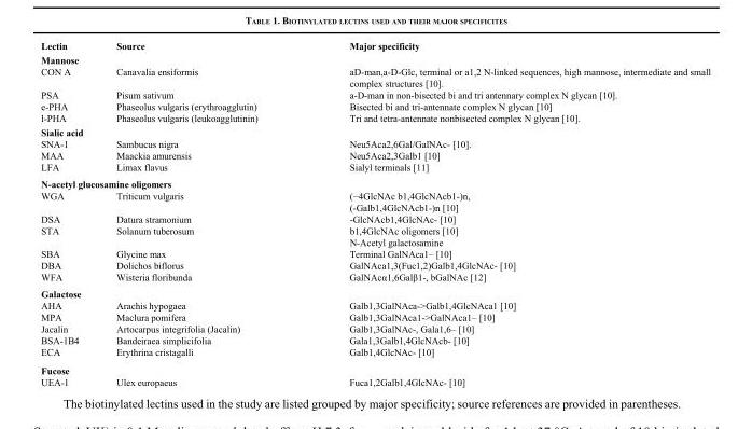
<table><thead><tr><td>Lectin</td><td>Source</td><td>Major specificity</td></tr></thead><tbody><tr><td colspan="3">Mannose</td></tr><tr><td>CON A</td><td>Canavalia ensiformis</td><td>aD-man,a-D-Glc, terminal or a1,2 N-linked sequences, high mannose, intermediate and small complex structures [10].</td></tr><tr><td>PSA</td><td>Pisum sativum</td><td>a-D-man in non-bisected bi and tri antennary complex N glycan [10].</td></tr><tr><td>e-PHA</td><td>Phaseolus vulgaris (erythroagglutin)</td><td>Bisected bi and tri-antennate complex N glycan [10]</td></tr><tr><td>l-PHA</td><td>Phaseolus vulgaris (leukoagglutinin)</td><td>Tri and tetra-antennate nonbisected complex N glycan [10].</td></tr><tr><td colspan="3">Sialic acid</td></tr><tr><td>SNA-1</td><td>Sambucus nigra</td><td>Neu5Aca2,6Gal/GalNAc- [10].</td></tr><tr><td>MAA</td><td>Maackia amurensis</td><td>Neu5Aca2,3Galb1 [10]</td></tr><tr><td>LFA</td><td>Limax flavus</td><td>Sialyl terminals [11]</td></tr><tr><td colspan="3">N-acetyl glucosamine oligomers</td></tr><tr><td rowspan="2">WGA</td><td>Triticum vulgaris</td><td>(−4GlcNAc b1,4GlcNAcb1-)n,</td></tr><tr><td></td><td>(-Galb1,4GlcNAcb1-)n [10]</td></tr><tr><td>DSA</td><td>Datura stramonium</td><td>-GlcNAcb1,4GlcNAc- [10]</td></tr><tr><td rowspan="2">STA</td><td>Solanum tuberosum</td><td>b1,4GlcNAc oligomers [10]</td></tr><tr><td></td><td>N-Acetyl galactosamine</td></tr><tr><td>SBA</td><td>Glycine max</td><td>Terminal GalNAca1– [10]</td></tr><tr><td>DBA</td><td>Dolichos biflorus</td><td>GalNAca1,3(Fuc1,2)Galb1,4GlcNAc- [10]</td></tr><tr><td>WFA</td><td>Wisteria floribunda</td><td>GalNAcα1,6Galβ1-, bGalNAc [12]</td></tr><tr><td colspan="3">Galactose</td></tr><tr><td>AHA</td><td>Arachis hypogaea</td><td>Galb1,3GalNAca-&gt;Galb1,4GlcNAca1 [10]</td></tr><tr><td>MPA</td><td>Maclura pomifera</td><td>Galb1,3GalNAca1-&gt;GalNAca1– [10]</td></tr><tr><td>Jacalin</td><td>Artocarpus integrifolia (Jacalin)</td><td>Galb1,3GalNAc-, Gala1,6– [10]</td></tr><tr><td>BSA-1B4</td><td>Bandeiraea simplicifolia</td><td>Gala1,3Galb1,4GlcNAcb- [10]</td></tr><tr><td>ECA</td><td>Erythrina cristagalli</td><td>Galb1,4GlcNAc- [10]</td></tr><tr><td colspan="3">Fucose</td></tr><tr><td>UEA-1</td><td>Ulex europaeus</td><td>Fuca1,2Galb1,4GlcNAc- [10]</td></tr></tbody></table>